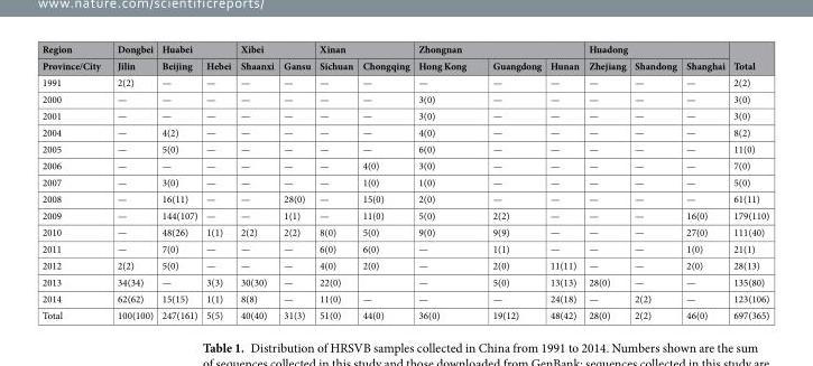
<table><thead><tr><td rowspan="2">Region Province/City</td><td rowspan="2">Dongbei Jilin</td><td colspan="2">Huabei</td><td colspan="2">Xibei</td><td colspan="2">Xinan</td><td colspan="3">Zhongnan</td><td colspan="3">Huadong</td><td rowspan="2">Total</td></tr><tr><td>Beijing</td><td>Hebei</td><td>Shaanxi</td><td>Gansu</td><td>Sichuan</td><td>Chongqing</td><td>Hong Kong</td><td>Guangdong</td><td>Hunan</td><td>Zhejiang</td><td>Shandong</td><td>Shanghai</td></tr></thead><tbody><tr><td>1991</td><td>2(2)</td><td>—</td><td>—</td><td>—</td><td>—</td><td>—</td><td>—</td><td>—</td><td>—</td><td>—</td><td>—</td><td>—</td><td>—</td><td>2(2)</td></tr><tr><td>2000</td><td>—</td><td>—</td><td>—</td><td>—</td><td>—</td><td>—</td><td>—</td><td>3(0)</td><td>—</td><td>—</td><td>—</td><td>—</td><td>—</td><td>3(0)</td></tr><tr><td>2001</td><td>—</td><td>—</td><td>—</td><td>—</td><td>—</td><td>—</td><td>—</td><td>3(0)</td><td>—</td><td>—</td><td>—</td><td>—</td><td>—</td><td>3(0)</td></tr><tr><td>2004</td><td>—</td><td>4(2)</td><td>—</td><td>—</td><td>—</td><td>—</td><td>—</td><td>4(0)</td><td>—</td><td>—</td><td>—</td><td>—</td><td>—</td><td>8(2)</td></tr><tr><td>2005</td><td>—</td><td>5(0)</td><td>—</td><td>—</td><td>—</td><td>—</td><td>—</td><td>6(0)</td><td>—</td><td>—</td><td>—</td><td>—</td><td>—</td><td>11(0)</td></tr><tr><td>2006</td><td>—</td><td>—</td><td>—</td><td>—</td><td>—</td><td>—</td><td>4(0)</td><td>3(0)</td><td>—</td><td>—</td><td>—</td><td>—</td><td>—</td><td>7(0)</td></tr><tr><td>2007</td><td>—</td><td>3(0)</td><td>—</td><td>—</td><td>—</td><td>—</td><td>1(0)</td><td>1(0)</td><td>—</td><td>—</td><td>—</td><td>—</td><td>—</td><td>5(0)</td></tr><tr><td>2008</td><td>—</td><td>16(11)</td><td>—</td><td>—</td><td>28(0)</td><td>—</td><td>15(0)</td><td>2(0)</td><td>—</td><td>—</td><td>—</td><td>—</td><td>—</td><td>61(11)</td></tr><tr><td>2009</td><td>—</td><td>144(107)</td><td>—</td><td>—</td><td>1(1)</td><td>—</td><td>11(0)</td><td>5(0)</td><td>2(2)</td><td>—</td><td>—</td><td>—</td><td>16(0)</td><td>179(110)</td></tr><tr><td>2010</td><td>—</td><td>48(26)</td><td>1(1)</td><td>2(2)</td><td>2(2)</td><td>8(0)</td><td>5(0)</td><td>9(0)</td><td>9(9)</td><td>—</td><td>—</td><td>—</td><td>27(0)</td><td>111(40)</td></tr><tr><td>2011</td><td>—</td><td>7(0)</td><td>—</td><td>—</td><td>—</td><td>6(0)</td><td>6(0)</td><td>—</td><td>1(1)</td><td>—</td><td>—</td><td>—</td><td>1(0)</td><td>21(1)</td></tr><tr><td>2012</td><td>2(2)</td><td>5(0)</td><td>—</td><td>—</td><td>—</td><td>4(0)</td><td>2(0)</td><td>—</td><td>2(0)</td><td>11(11)</td><td>—</td><td>—</td><td>2(0)</td><td>28(13)</td></tr><tr><td>2013</td><td>34(34)</td><td>—</td><td>3(3)</td><td>30(30)</td><td>—</td><td>22(0)</td><td></td><td>—</td><td>5(0)</td><td>13(13)</td><td>28(0)</td><td>—</td><td>—</td><td>135(80)</td></tr><tr><td>2014</td><td>62(62)</td><td>15(15)</td><td>1(1)</td><td>8(8)</td><td>—</td><td>11(0)</td><td>—</td><td>—</td><td>—</td><td>24(18)</td><td>—</td><td>2(2)</td><td>—</td><td>123(106)</td></tr><tr><td>Total</td><td>100(100)</td><td>247(161)</td><td>5(5)</td><td>40(40)</td><td>31(3)</td><td>51(0)</td><td>44(0)</td><td>36(0)</td><td>19(12)</td><td>48(42)</td><td>28(0)</td><td>2(2)</td><td>46(0)</td><td>697(365)</td></tr></tbody></table>